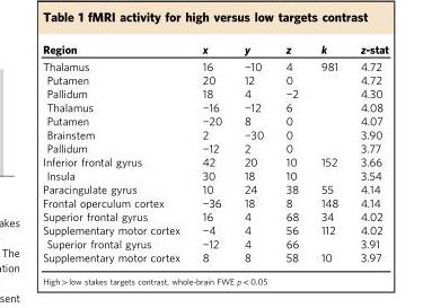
<table><thead><tr><td>Region</td><td>x</td><td>y</td><td>z</td><td>k</td><td>z-stat</td></tr></thead><tbody><tr><td>Thalamus</td><td>16</td><td>−10</td><td>4</td><td>981</td><td>4.72</td></tr><tr><td>Putamen</td><td>20</td><td>12</td><td>0</td><td></td><td>4.72</td></tr><tr><td>Pallidum</td><td>18</td><td>4</td><td>−2</td><td></td><td>4.30</td></tr><tr><td>Thalamus</td><td>−16</td><td>−12</td><td>6</td><td></td><td>4.08</td></tr><tr><td>Putamen</td><td>−20</td><td>8</td><td>0</td><td></td><td>4.07</td></tr><tr><td>Brainstem</td><td>2</td><td>−30</td><td>0</td><td></td><td>3.90</td></tr><tr><td>Pallidum</td><td>−12</td><td>2</td><td>0</td><td></td><td>3.77</td></tr><tr><td>Inferior frontal gyrus</td><td>42</td><td>20</td><td>10</td><td>152</td><td>3.66</td></tr><tr><td>Insula</td><td>30</td><td>18</td><td>10</td><td></td><td>3.54</td></tr><tr><td>Paracingulate gyrus</td><td>10</td><td>24</td><td>38</td><td>55</td><td>4.14</td></tr><tr><td>Frontal operculum cortex</td><td>−36</td><td>18</td><td>8</td><td>148</td><td>4.14</td></tr><tr><td>Superior frontal gyrus</td><td>16</td><td>4</td><td>68</td><td>34</td><td>4.02</td></tr><tr><td>Supplementary motor cortex</td><td>−4</td><td>4</td><td>56</td><td>112</td><td>4.02</td></tr><tr><td>Superior frontal gyrus</td><td>−12</td><td>4</td><td>66</td><td></td><td>3.91</td></tr><tr><td>Supplementary motor cortex</td><td>8</td><td>8</td><td>58</td><td>10</td><td>3.97</td></tr></tbody></table>